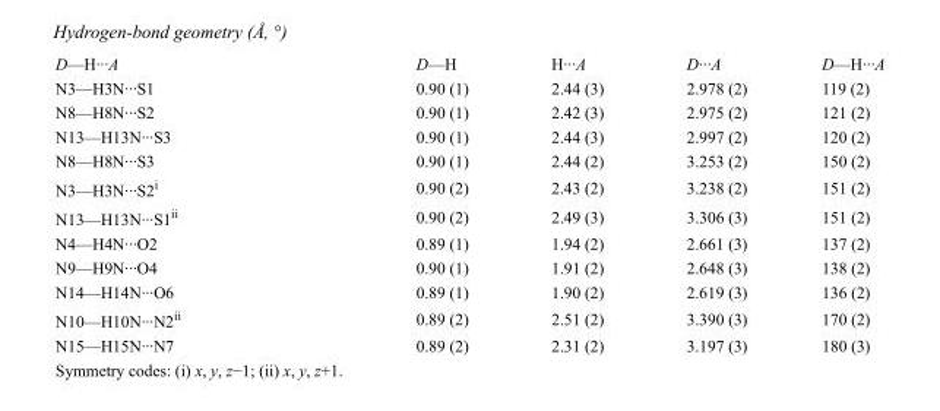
<table><tbody><tr><td>D—H···A</td><td>D—H</td><td>H···A</td><td>D···A</td><td>D—H···A</td></tr><tr><td>N3—H3N···S1</td><td>0.90 (1)</td><td>2.44 (3)</td><td>2.978 (2)</td><td>119 (2)</td></tr><tr><td>N8—H8N···S2</td><td>0.90 (1)</td><td>2.42 (3)</td><td>2.975 (2)</td><td>121 (2)</td></tr><tr><td>N13—H13N···S3</td><td>0.90 (1)</td><td>2.44 (3)</td><td>2.997 (2)</td><td>120 (2)</td></tr><tr><td>N8—H8N···S3</td><td>0.90 (1)</td><td>2.44 (2)</td><td>3.253 (2)</td><td>150 (2)</td></tr><tr><td>N3—H3N···S2<sup>i</sup></td><td>0.90 (2)</td><td>2.43 (2)</td><td>3.238 (2)</td><td>151 (2)</td></tr><tr><td>N13—H13N···S1<sup>ii</sup></td><td>0.90 (2)</td><td>2.49 (3)</td><td>3.306 (3)</td><td>151 (2)</td></tr><tr><td>N4—H4N···O2</td><td>0.89 (1)</td><td>1.94 (2)</td><td>2.661 (3)</td><td>137 (2)</td></tr><tr><td>N9—H9N···O4</td><td>0.90 (1)</td><td>1.91 (2)</td><td>2.648 (3)</td><td>138 (2)</td></tr><tr><td>N14—H14N···O6</td><td>0.89 (1)</td><td>1.90 (2)</td><td>2.619 (3)</td><td>136 (2)</td></tr><tr><td>N10—H10N···N2<sup>ii</sup></td><td>0.89 (2)</td><td>2.51 (2)</td><td>3.390 (3)</td><td>170 (2)</td></tr><tr><td>N15—H15N···N7</td><td>0.89 (2)</td><td>2.31 (2)</td><td>3.197 (3)</td><td>180 (3)</td></tr></tbody></table>